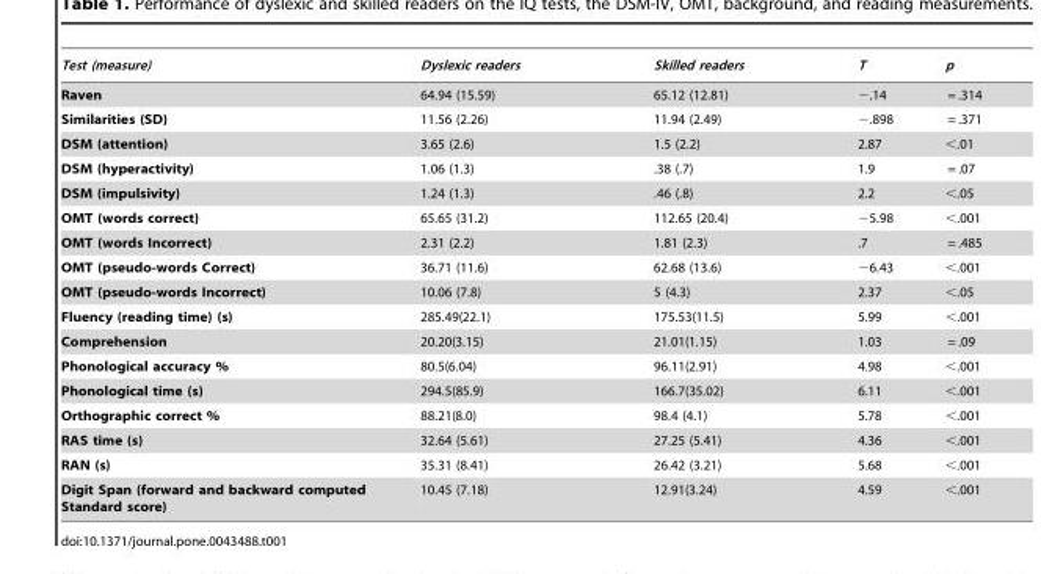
<table><thead><tr><td>Test (measure)</td><td>Dyslexic readers</td><td>Skilled readers</td><td>T</td><td>p</td></tr></thead><tbody><tr><td>Raven</td><td>64.94 (15.59)</td><td>65.12 (12.81)</td><td>−.14</td><td>= .314</td></tr><tr><td>Similarities (SD)</td><td>11.56 (2.26)</td><td>11.94 (2.49)</td><td>−.898</td><td>= .371</td></tr><tr><td>DSM (attention)</td><td>3.65 (2.6)</td><td>1.5 (2.2)</td><td>2.87</td><td>&lt;.01</td></tr><tr><td>DSM (hyperactivity)</td><td>1.06 (1.3)</td><td>.38 (.7)</td><td>1.9</td><td>= .07</td></tr><tr><td>DSM (impulsivity)</td><td>1.24 (1.3)</td><td>.46 (.8)</td><td>2.2</td><td>&lt;.05</td></tr><tr><td>OMT (words correct)</td><td>65.65 (31.2)</td><td>112.65 (20.4)</td><td>−5.98</td><td>&lt;.001</td></tr><tr><td>OMT (words Incorrect)</td><td>2.31 (2.2)</td><td>1.81 (2.3)</td><td>.7</td><td>= .485</td></tr><tr><td>OMT (pseudo-words Correct)</td><td>36.71 (11.6)</td><td>62.68 (13.6)</td><td>−6.43</td><td>&lt;.001</td></tr><tr><td>OMT (pseudo-words Incorrect)</td><td>10.06 (7.8)</td><td>5 (4.3)</td><td>2.37</td><td>&lt;.05</td></tr><tr><td>Fluency (reading time) (s)</td><td>285.49(22.1)</td><td>175.53(11.5)</td><td>5.99</td><td>&lt;.001</td></tr><tr><td>Comprehension</td><td>20.20(3.15)</td><td>21.01(1.15)</td><td>1.03</td><td>= .09</td></tr><tr><td>Phonological accuracy %</td><td>80.5(6.04)</td><td>96.11(2.91)</td><td>4.98</td><td>&lt;.001</td></tr><tr><td>Phonological time (s)</td><td>294.5(85.9)</td><td>166.7(35.02)</td><td>6.11</td><td>&lt;.001</td></tr><tr><td>Orthographic correct %</td><td>88.21(8.0)</td><td>98.4 (4.1)</td><td>5.78</td><td>&lt;.001</td></tr><tr><td>RAS time (s)</td><td>32.64 (5.61)</td><td>27.25 (5.41)</td><td>4.36</td><td>&lt;.001</td></tr><tr><td>RAN (s)</td><td>35.31 (8.41)</td><td>26.42 (3.21)</td><td>5.68</td><td>&lt;.001</td></tr><tr><td>Digit Span (forward and backward computed Standard score)</td><td>10.45 (7.18)</td><td>12.91(3.24)</td><td>4.59</td><td>&lt;.001</td></tr></tbody></table>